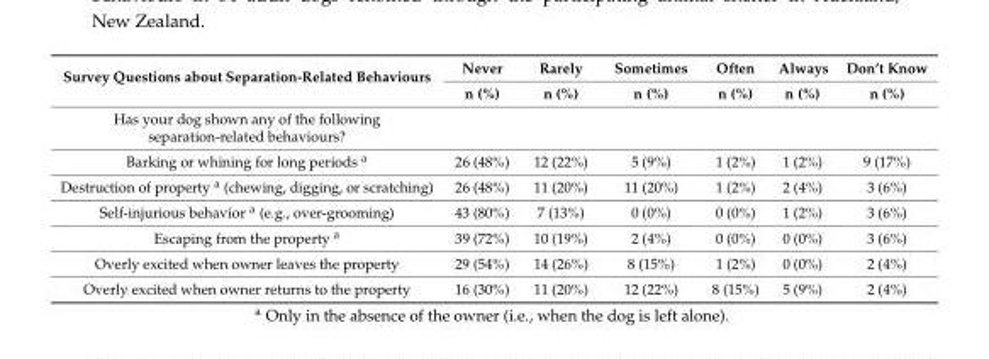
<table><thead><tr><td rowspan="2">Survey Questions about Separation-Related Behaviours</td><td rowspan="2">Never n (%)</td><td rowspan="2">Rarely n (%)</td><td rowspan="2">Sometimes n (%)</td><td rowspan="2">Often n (%)</td><td rowspan="2">Always n (%)</td><td rowspan="2">Don’t Know n (%)</td></tr><tr></tr></thead><tbody><tr><td colspan="7">Has your dog shown any of the following separation-related behaviours?</td></tr><tr><td>Barking or whining for long periods <sup>a</sup></td><td>26 (48%)</td><td>12 (22%)</td><td>5 (9%)</td><td>1 (2%)</td><td>1 (2%)</td><td>9 (17%)</td></tr><tr><td>Destruction of property <sup>a</sup> (chewing, digging, or scratching)</td><td>26 (48%)</td><td>11 (20%)</td><td>11 (20%)</td><td>1 (2%)</td><td>2 (4%)</td><td>3 (6%)</td></tr><tr><td>Self-injurious behavior <sup>a</sup> (e.g., over-grooming)</td><td>43 (80%)</td><td>7 (13%)</td><td>0 (0%)</td><td>0 (0%)</td><td>1 (2%)</td><td>3 (6%)</td></tr><tr><td>Escaping from the property <sup>a</sup></td><td>39 (72%)</td><td>10 (19%)</td><td>2 (4%)</td><td>0 (0%)</td><td>0 (0%)</td><td>3 (6%)</td></tr><tr><td>Overly excited when owner leaves the property</td><td>29 (54%)</td><td>14 (26%)</td><td>8 (15%)</td><td>1 (2%)</td><td>0 (0%)</td><td>2 (4%)</td></tr><tr><td>Overly excited when owner returns to the property</td><td>16 (30%)</td><td>11 (20%)</td><td>12 (22%)</td><td>8 (15%)</td><td>5 (9%)</td><td>2 (4%)</td></tr></tbody></table>